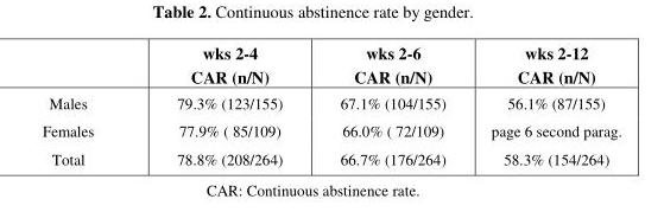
<table><thead><tr><td></td><td>wks 2-4 CAR (n/N)</td><td>wks 2-6 CAR (n/N)</td><td>wks 2-12 CAR (n/N)</td></tr></thead><tbody><tr><td>Males</td><td>79.3% (123/155)</td><td>67.1% (104/155)</td><td>56.1% (87/155)</td></tr><tr><td>Females</td><td>77.9% ( 85/109)</td><td>66.0% ( 72/109)</td><td>page 6 second parag.</td></tr><tr><td>Total</td><td>78.8% (208/264)</td><td>66.7% (176/264)</td><td>58.3% (154/264)</td></tr></tbody></table>